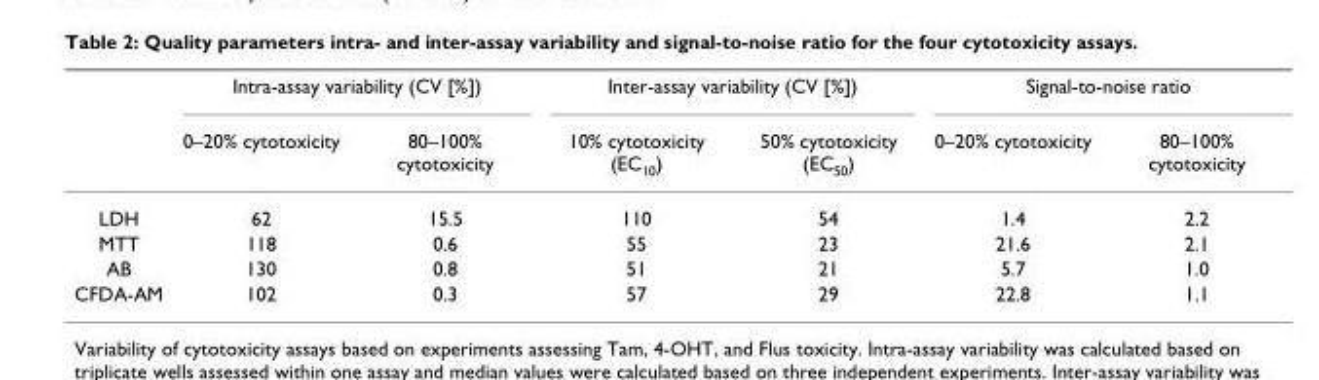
<table><thead><tr><td rowspan="2"></td><td colspan="2">Intra-assay variability (CV [%])</td><td colspan="2">Inter-assay variability (CV [%])</td><td colspan="2">Signal-to-noise ratio</td></tr><tr><td>0–20% cytotoxicity</td><td>80–100% cytotoxicity</td><td>10% cytotoxicity (EC<sub>10</sub>)</td><td>50% cytotoxicity (EC<sub>50</sub>)</td><td>0–20% cytotoxicity</td><td>80–100% cytotoxicity</td></tr></thead><tbody><tr><td>LDH</td><td>62</td><td>15.5</td><td>110</td><td>54</td><td>1.4</td><td>2.2</td></tr><tr><td>MTT</td><td>118</td><td>0.6</td><td>55</td><td>23</td><td>21.6</td><td>2.1</td></tr><tr><td>AB</td><td>130</td><td>0.8</td><td>51</td><td>21</td><td>5.7</td><td>1.0</td></tr><tr><td>CFDA-AM</td><td>102</td><td>0.3</td><td>57</td><td>29</td><td>22.8</td><td>1.1</td></tr></tbody></table>